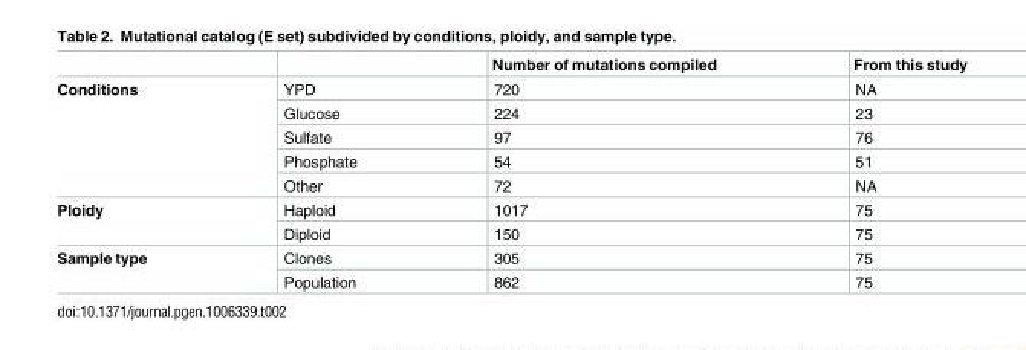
<table><thead><tr><td></td><td></td><td>Number of mutations compiled</td><td>From this study</td></tr></thead><tbody><tr><td rowspan="5">Conditions</td><td>YPD</td><td>720</td><td>NA</td></tr><tr><td>Glucose</td><td>224</td><td>23</td></tr><tr><td>Sulfate</td><td>97</td><td>76</td></tr><tr><td>Phosphate</td><td>54</td><td>51</td></tr><tr><td>Other</td><td>72</td><td>NA</td></tr><tr><td rowspan="2">Ploidy</td><td>Haploid</td><td>1017</td><td>75</td></tr><tr><td>Diploid</td><td>150</td><td>75</td></tr><tr><td rowspan="2">Sample type</td><td>Clones</td><td>305</td><td>75</td></tr><tr><td>Population</td><td>862</td><td>75</td></tr></tbody></table>